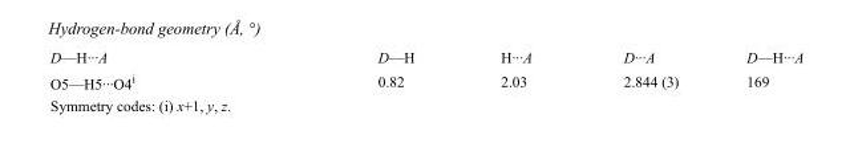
<table><tbody><tr><td>D—H···A</td><td>D—H</td><td>H···A</td><td>D···A</td><td>D—H···A</td></tr><tr><td>O5—H5···O4<sup>i</sup></td><td>0.82</td><td>2.03</td><td>2.844 (3)</td><td>169</td></tr></tbody></table>